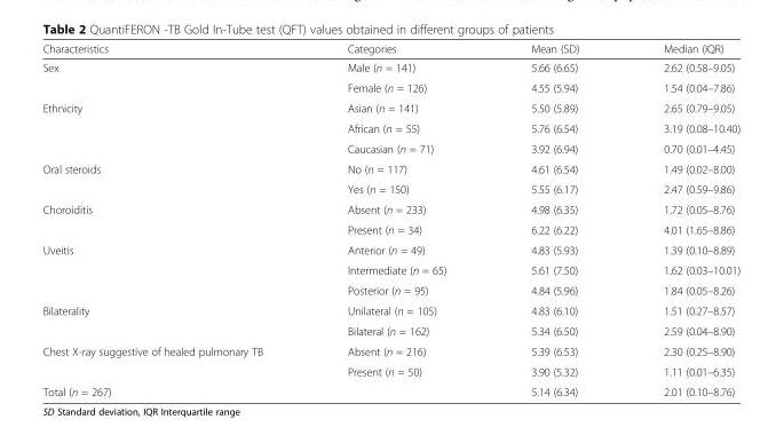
<table><thead><tr><td>Characteristics</td><td>Categories</td><td>Mean (SD)</td><td>Median (IQR)</td></tr></thead><tbody><tr><td rowspan="2">Sex</td><td>Male (n = 141)</td><td>5.66 (6.65)</td><td>2.62 (0.58–9.05)</td></tr><tr><td>Female (n = 126)</td><td>4.55 (5.94)</td><td>1.54 (0.04–7.86)</td></tr><tr><td rowspan="3">Ethnicity</td><td>Asian (n = 141)</td><td>5.50 (5.89)</td><td>2.65 (0.79–9.05)</td></tr><tr><td>African (n = 55)</td><td>5.76 (6.54)</td><td>3.19 (0.08–10.40)</td></tr><tr><td>Caucasian (n = 71)</td><td>3.92 (6.94)</td><td>0.70 (0.01–4.45)</td></tr><tr><td rowspan="2">Oral steroids</td><td>No (n = 117)</td><td>4.61 (6.54)</td><td>1.49 (0.02–8.00)</td></tr><tr><td>Yes (n = 150)</td><td>5.55 (6.17)</td><td>2.47 (0.59–9.86)</td></tr><tr><td rowspan="2">Choroiditis</td><td>Absent (n = 233)</td><td>4.98 (6.35)</td><td>1.72 (0.05–8.76)</td></tr><tr><td>Present (n = 34)</td><td>6.22 (6.22)</td><td>4.01 (1.65–8.86)</td></tr><tr><td rowspan="3">Uveitis</td><td>Anterior (n = 49)</td><td>4.83 (5.93)</td><td>1.39 (0.10–8.89)</td></tr><tr><td>Intermediate (n = 65)</td><td>5.61 (7.50)</td><td>1.62 (0.03–10.01)</td></tr><tr><td>Posterior (n = 95)</td><td>4.84 (5.96)</td><td>1.84 (0.05–8.26)</td></tr><tr><td rowspan="2">Bilaterality</td><td>Unilateral (n = 105)</td><td>4.83 (6.10)</td><td>1.51 (0.27–8.57)</td></tr><tr><td>Bilateral (n = 162)</td><td>5.34 (6.50)</td><td>2.59 (0.04–8.90)</td></tr><tr><td rowspan="2">Chest X-ray suggestive of healed pulmonary TB</td><td>Absent (n = 216)</td><td>5.39 (6.53)</td><td>2.30 (0.25–8.90)</td></tr><tr><td>Present (n = 50)</td><td>3.90 (5.32)</td><td>1.11 (0.01–6.35)</td></tr><tr><td>Total (n = 267)</td><td></td><td>5.14 (6.34)</td><td>2.01 (0.10–8.76)</td></tr></tbody></table>